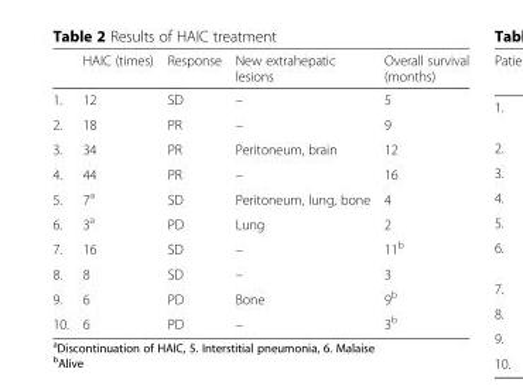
<table><thead><tr><td></td><td>HAIC (times)</td><td>Response</td><td>New extrahepatic lesions</td><td>Overall survival (months)</td></tr></thead><tbody><tr><td>1.</td><td>12</td><td>SD</td><td>–</td><td>5</td></tr><tr><td>2.</td><td>18</td><td>PR</td><td>–</td><td>9</td></tr><tr><td>3.</td><td>34</td><td>PR</td><td>Peritoneum, brain</td><td>12</td></tr><tr><td>4.</td><td>44</td><td>PR</td><td>–</td><td>16</td></tr><tr><td>5.</td><td>7<sup>a</sup></td><td>SD</td><td>Peritoneum, lung, bone</td><td>4</td></tr><tr><td>6.</td><td>3<sup>a</sup></td><td>PD</td><td>Lung</td><td>2</td></tr><tr><td>7.</td><td>16</td><td>SD</td><td>–</td><td>11<sup>b</sup></td></tr><tr><td>8.</td><td>8</td><td>SD</td><td>–</td><td>3</td></tr><tr><td>9.</td><td>6</td><td>PD</td><td>Bone</td><td>9<sup>b</sup></td></tr><tr><td>10.</td><td>6</td><td>PD</td><td>–</td><td>3<sup>b</sup></td></tr></tbody></table>